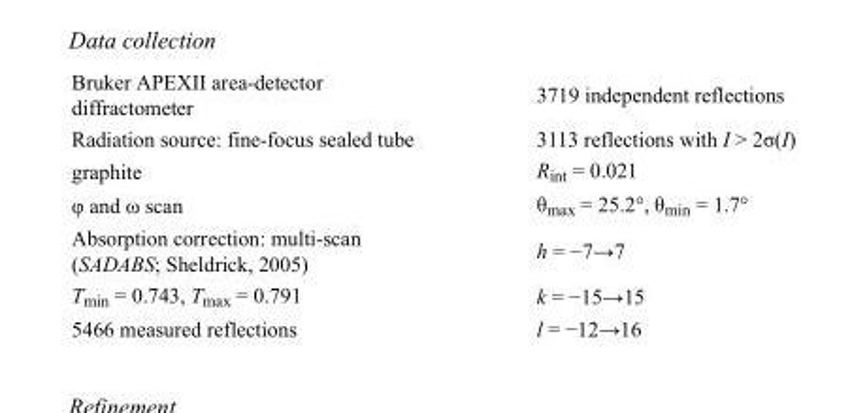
<table><tbody><tr><td>Bruker APEXII area-detector diffractometer</td><td>3719 independent reflections</td></tr><tr><td>Radiation source: fine-focus sealed tube</td><td>3113 reflections with I &gt; 2σ(I)</td></tr><tr><td>graphite</td><td>R<sub>int</sub> = 0.021</td></tr><tr><td>φ and ω scan</td><td>θ<sub>max</sub> = 25.2°, θ<sub>min</sub> = 1.7°</td></tr><tr><td>Absorption correction: multi-scan (SADABS; Sheldrick, 2005)</td><td>h = −7→7</td></tr><tr><td>T<sub>min</sub> = 0.743, T<sub>max</sub> = 0.791</td><td>k = −15→15</td></tr><tr><td>5466 measured reflections</td><td>l = −12→16</td></tr></tbody></table>